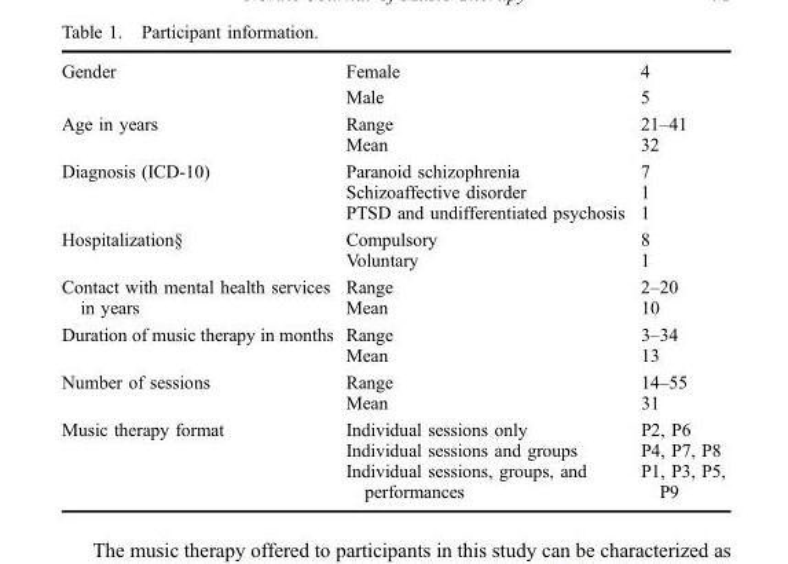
<table><thead><tr><td>Gender</td><td>Female</td><td>4</td></tr></thead><tbody><tr><td></td><td>Male</td><td>5</td></tr><tr><td rowspan="2">Age in years</td><td>Range</td><td>21–41</td></tr><tr><td>Mean</td><td>32</td></tr><tr><td rowspan="3">Diagnosis (ICD-10)</td><td>Paranoid schizophrenia</td><td>7</td></tr><tr><td>Schizoaffective disorder</td><td>1</td></tr><tr><td>PTSD and undifferentiated psychosis</td><td>1</td></tr><tr><td rowspan="2">Hospitalization§</td><td>Compulsory</td><td>8</td></tr><tr><td>Voluntary</td><td>1</td></tr><tr><td rowspan="2">Contact with mental health services in years</td><td>Range</td><td>2–20</td></tr><tr><td>Mean</td><td>10</td></tr><tr><td rowspan="2">Duration of music therapy in months</td><td>Range</td><td>3–34</td></tr><tr><td>Mean</td><td>13</td></tr><tr><td rowspan="2">Number of sessions</td><td>Range</td><td>14–55</td></tr><tr><td>Mean</td><td>31</td></tr><tr><td rowspan="3">Music therapy format</td><td>Individual sessions only</td><td>P2, P6</td></tr><tr><td>Individual sessions and groups</td><td>P4, P7, P8</td></tr><tr><td>Individual sessions, groups, and performances</td><td>P1, P3, P5, P9</td></tr></tbody></table>